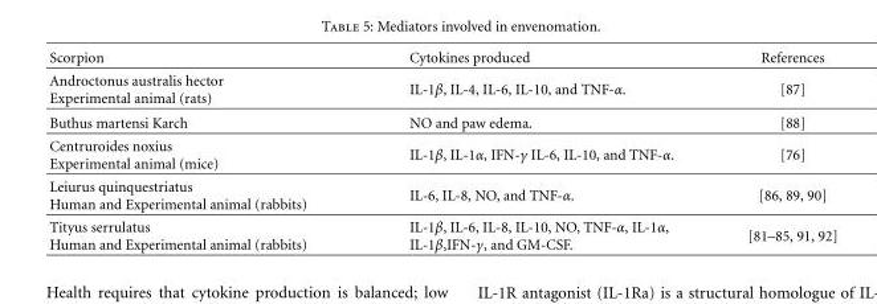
<table><thead><tr><td>Scorpion</td><td>Cytokines produced</td><td>References</td></tr></thead><tbody><tr><td>Androctonus australis hector Experimental animal (rats)</td><td>IL-1β, IL-4, IL-6, IL-10, and TNF-α.</td><td>[87]</td></tr><tr><td>Buthus martensi Karch</td><td>NO and paw edema.</td><td>[88]</td></tr><tr><td>Centruroides noxius Experimental animal (mice)</td><td>IL-1β, IL-1α, IFN-γ IL-6, IL-10, and TNF-α.</td><td>[76]</td></tr><tr><td>Leiurus quinquestriatus Human and Experimental animal (rabbits)</td><td>IL-6, IL-8, NO, and TNF-α.</td><td>[86, 89, 90]</td></tr><tr><td>Tityus serrulatus Human and Experimental animal (rabbits)</td><td>IL-1β, IL-6, IL-8, IL-10, NO, TNF-α, IL-1α, IL-1β,IFN-γ, and GM-CSF.</td><td>[81–85, 91,</td></tr></tbody></table>